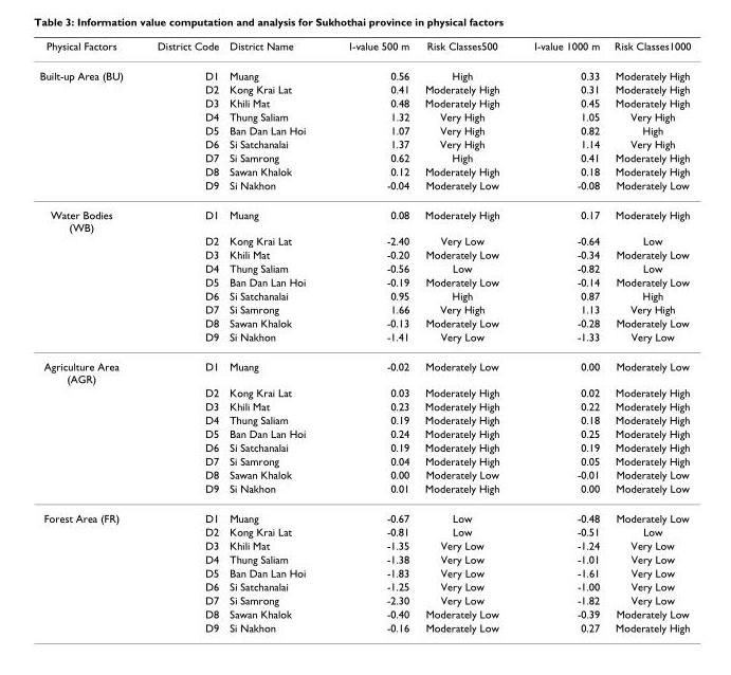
<table><thead><tr><td>Physical Factors</td><td>District Code</td><td>District Name</td><td>I-value 500 m</td><td>Risk Classes500</td><td>I-value 1000 m</td><td>Risk Classes1000</td></tr></thead><tbody><tr><td rowspan="9">Built-up Area (BU)</td><td>D1</td><td>Muang</td><td>0.56</td><td>High</td><td>0.33</td><td>Moderately High</td></tr><tr><td>D2</td><td>Kong Krai Lat</td><td>0.41</td><td>Moderately High</td><td>0.31</td><td>Moderately High</td></tr><tr><td>D3</td><td>Khili Mat</td><td>0.48</td><td>Moderately High</td><td>0.45</td><td>Moderately High</td></tr><tr><td>D4</td><td>Thung Saliam</td><td>1.32</td><td>Very High</td><td>1.05</td><td>Very High</td></tr><tr><td>D5</td><td>Ban Dan Lan Hoi</td><td>1.07</td><td>Very High</td><td>0.82</td><td>High</td></tr><tr><td>D6</td><td>Si Satchanalai</td><td>1.37</td><td>Very High</td><td>1.14</td><td>Very High</td></tr><tr><td>D7</td><td>Si Samrong</td><td>0.62</td><td>High</td><td>0.41</td><td>Moderately High</td></tr><tr><td>D8</td><td>Sawan Khalok</td><td>0.12</td><td>Moderately High</td><td>0.18</td><td>Moderately High</td></tr><tr><td>D9</td><td>Si Nakhon</td><td>-0.04</td><td>Moderately Low</td><td>-0.08</td><td>Moderately Low</td></tr><tr><td rowspan="9">Water Bodies (WB)</td><td>D1</td><td>Muang</td><td>0.08</td><td>Moderately High</td><td>0.17</td><td>Moderately High</td></tr><tr><td>D2</td><td>Kong Krai Lat</td><td>-2.40</td><td>Very Low</td><td>-0.64</td><td>Low</td></tr><tr><td>D3</td><td>Khili Mat</td><td>-0.20</td><td>Moderately Low</td><td>-0.34</td><td>Moderately Low</td></tr><tr><td>D4</td><td>Thung Saliam</td><td>-0.56</td><td>Low</td><td>-0.82</td><td>Low</td></tr><tr><td>D5</td><td>Ban Dan Lan Hoi</td><td>-0.19</td><td>Moderately Low</td><td>-0.14</td><td>Moderately Low</td></tr><tr><td>D6</td><td>Si Satchanalai</td><td>0.95</td><td>High</td><td>0.87</td><td>High</td></tr><tr><td>D7</td><td>Si Samrong</td><td>1.66</td><td>Very High</td><td>1.13</td><td>Very High</td></tr><tr><td>D8</td><td>Sawan Khalok</td><td>-0.13</td><td>Moderately Low</td><td>-0.28</td><td>Moderately Low</td></tr><tr><td>D9</td><td>Si Nakhon</td><td>-1.41</td><td>Very Low</td><td>-1.33</td><td>Very Low</td></tr><tr><td rowspan="9">Agriculture Area (AGR)</td><td>D1</td><td>Muang</td><td>-0.02</td><td>Moderately Low</td><td>0.00</td><td>Moderately Low</td></tr><tr><td>D2</td><td>Kong Krai Lat</td><td>0.03</td><td>Moderately High</td><td>0.02</td><td>Moderately High</td></tr><tr><td>D3</td><td>Khili Mat</td><td>0.23</td><td>Moderately High</td><td>0.22</td><td>Moderately High</td></tr><tr><td>D4</td><td>Thung Saliam</td><td>0.19</td><td>Moderately High</td><td>0.18</td><td>Moderately High</td></tr><tr><td>D5</td><td>Ban Dan Lan Hoi</td><td>0.24</td><td>Moderately High</td><td>0.25</td><td>Moderately High</td></tr><tr><td>D6</td><td>Si Satchanalai</td><td>0.19</td><td>Moderately High</td><td>0.19</td><td>Moderately High</td></tr><tr><td>D7</td><td>Si Samrong</td><td>0.04</td><td>Moderately High</td><td>0.05</td><td>Moderately High</td></tr><tr><td>D8</td><td>Sawan Khalok</td><td>0.00</td><td>Moderately Low</td><td>-0.01</td><td>Moderately Low</td></tr><tr><td>D9</td><td>Si Nakhon</td><td>0.01</td><td>Moderately High</td><td>0.00</td><td>Moderately Low</td></tr><tr><td rowspan="9">Forest Area (FR)</td><td>D1</td><td>Muang</td><td>-0.67</td><td>Low</td><td>-0.48</td><td>Moderately Low</td></tr><tr><td>D2</td><td>Kong Krai Lat</td><td>-0.81</td><td>Low</td><td>-0.51</td><td>Low</td></tr><tr><td>D3</td><td>Khili Mat</td><td>-1.35</td><td>Very Low</td><td>-1.24</td><td>Very Low</td></tr><tr><td>D4</td><td>Thung Saliam</td><td>-1.38</td><td>Very Low</td><td>-1.01</td><td>Very Low</td></tr><tr><td>D5</td><td>Ban Dan Lan Hoi</td><td>-1.83</td><td>Very Low</td><td>-1.61</td><td>Very Low</td></tr><tr><td>D6</td><td>Si Satchanalai</td><td>-1.25</td><td>Very Low</td><td>-1.00</td><td>Very Low</td></tr><tr><td>D7</td><td>Si Samrong</td><td>-2.30</td><td>Very Low</td><td>-1.82</td><td>Very Low</td></tr><tr><td>D8</td><td>Sawan Khalok</td><td>-0.40</td><td>Moderately Low</td><td>-0.39</td><td>Moderately Low</td></tr><tr><td>D9</td><td>Si Nakhon</td><td>-0.16</td><td>Moderately Low</td><td>0.27</td><td>Moderately High</td></tr></tbody></table>